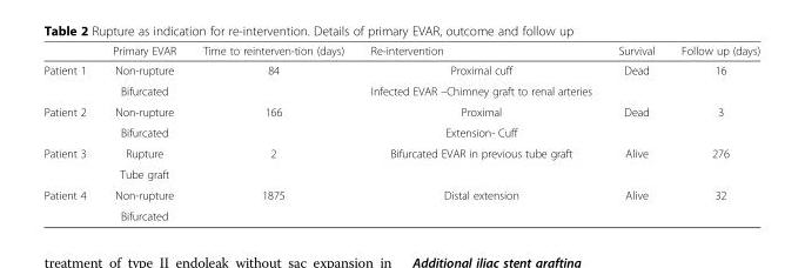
<table><thead><tr><td></td><td>Primary EVAR</td><td>Time to reinterven-tion (days)</td><td>Re-intervention</td><td>Survival</td><td>Follow up (days)</td></tr></thead><tbody><tr><td rowspan="2">Patient 1</td><td>Non-rupture</td><td>84</td><td>Proximal cuff</td><td rowspan="2">Dead</td><td rowspan="2">16</td></tr><tr><td>Bifurcated</td><td></td><td>Infected EVAR –Chimney graft to renal arteries</td></tr><tr><td rowspan="2">Patient 2</td><td>Non-rupture</td><td>166</td><td>Proximal</td><td rowspan="2">Dead</td><td rowspan="2">3</td></tr><tr><td>Bifurcated</td><td></td><td>Extension- Cuff</td></tr><tr><td rowspan="2">Patient 3</td><td>Rupture</td><td>2</td><td rowspan="2">Bifurcated EVAR in previous tube graft</td><td rowspan="2">Alive</td><td rowspan="2">276</td></tr><tr><td>Tube graft</td><td></td></tr><tr><td rowspan="2">Patient 4</td><td>Non-rupture</td><td rowspan="2">1875</td><td rowspan="2">Distal extension</td><td rowspan="2">Alive</td><td rowspan="2">32</td></tr><tr><td>Bifurcated</td></tr></tbody></table>